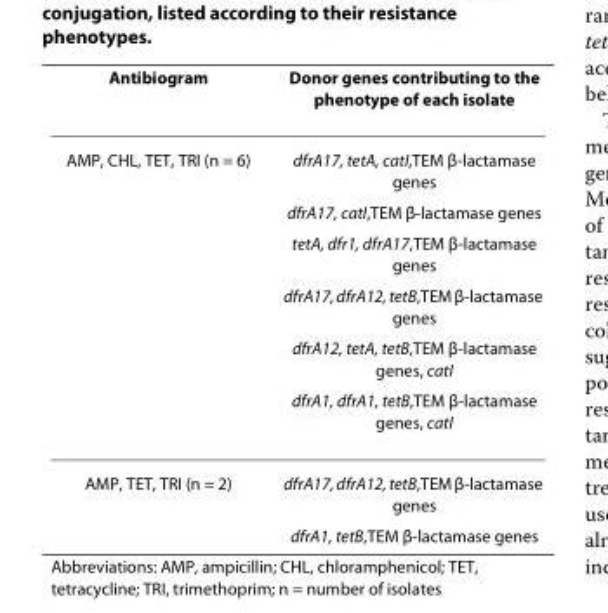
<table><thead><tr><td>Antibiogram</td><td>Donor genes contributing to the phenotype of each isolate</td></tr></thead><tbody><tr><td rowspan="6">AMP, CHL, TET, TRI (n = 6)</td><td>dfrA17, tetA, catI,TEM β-lactamase genes</td></tr><tr><td>dfrA17, catI,TEM β-lactamase genes</td></tr><tr><td>tetA, dfr1, dfrA17,TEM β-lactamase genes</td></tr><tr><td>dfrA17, dfrA12, tetB,TEM β-lactamase genes</td></tr><tr><td>dfrA12, tetA, tetB,TEM β-lactamase genes, catI</td></tr><tr><td>dfrA1, dfrA1, tetB,TEM β-lactamase genes, catI</td></tr><tr><td rowspan="2">AMP, TET, TRI (n = 2)</td><td>dfrA17, dfrA12, tetB,TEM β-lactamase genes</td></tr><tr><td>dfrA1, tetB,TEM β-lactamase genes</td></tr></tbody></table>